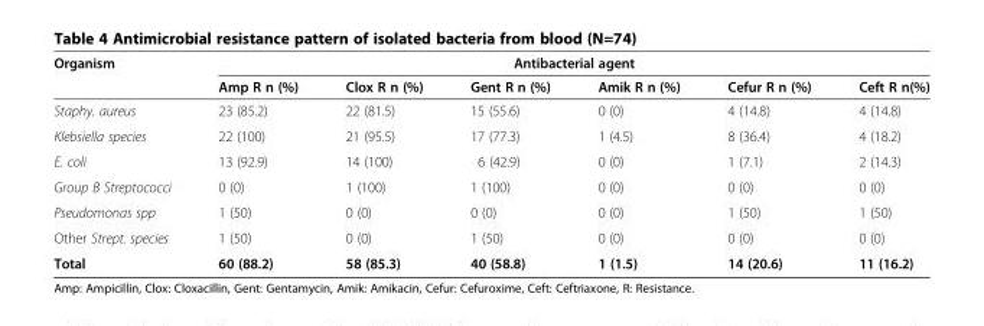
<table><thead><tr><td rowspan="2">Organism</td><td colspan="6">Antibacterial agent</td></tr><tr><td>Amp R n (%)</td><td>Clox R n (%)</td><td>Gent R n (%)</td><td>Amik R n (%)</td><td>Cefur R n (%)</td><td>Ceft R n(%)</td></tr></thead><tbody><tr><td>Staphy. aureus</td><td>23 (85.2)</td><td>22 (81.5)</td><td>15 (55.6)</td><td>0 (0)</td><td>4 (14.8)</td><td>4 (14.8)</td></tr><tr><td>Klebsiella species</td><td>22 (100)</td><td>21 (95.5)</td><td>17 (77.3)</td><td>1 (4.5)</td><td>8 (36.4)</td><td>4 (18.2)</td></tr><tr><td>E. coli</td><td>13 (92.9)</td><td>14 (100)</td><td>6 (42.9)</td><td>0 (0)</td><td>1 (7.1)</td><td>2 (14.3)</td></tr><tr><td>Group B Streptococci</td><td>0 (0)</td><td>1 (100)</td><td>1 (100)</td><td>0 (0)</td><td>0 (0)</td><td>0 (0)</td></tr><tr><td>Pseudomonas spp</td><td>1 (50)</td><td>0 (0)</td><td>0 (0)</td><td>0 (0)</td><td>1 (50)</td><td>1 (50)</td></tr><tr><td>Other Strept. species</td><td>1 (50)</td><td>0 (0)</td><td>1 (50)</td><td>0 (0)</td><td>0 (0)</td><td>0 (0)</td></tr><tr><td>Total</td><td>60 (88.2)</td><td>58 (85.3)</td><td>40 (58.8)</td><td>1 (1.5)</td><td>14 (20.6)</td><td>11 (16.2)</td></tr></tbody></table>